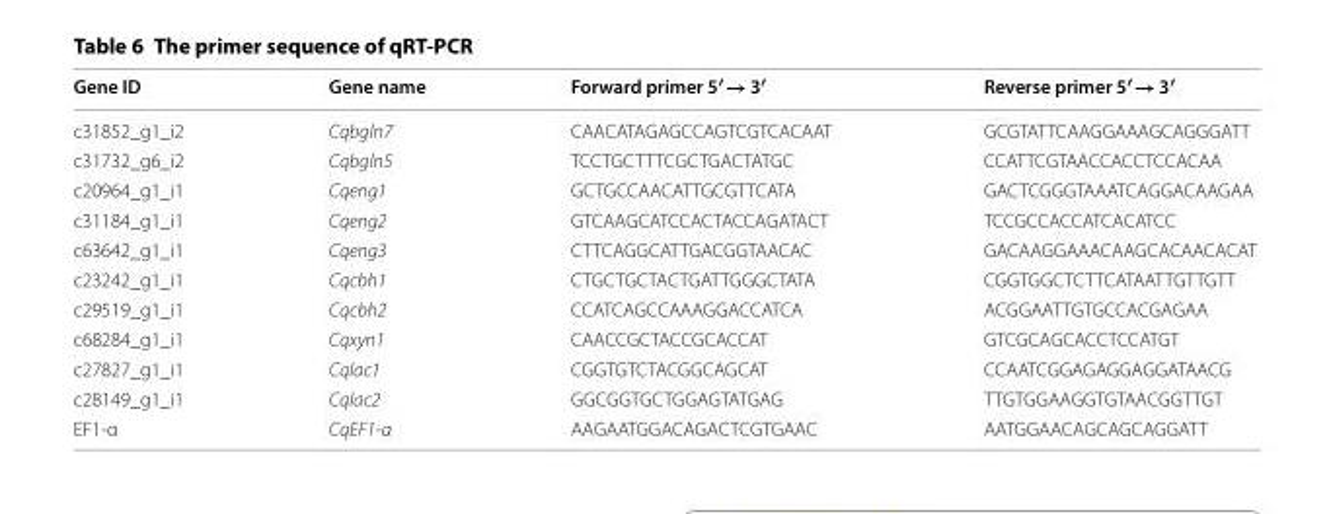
<table><thead><tr><td>Gene ID</td><td>Gene name</td><td>Forward primer 5′ → 3′</td><td>Reverse primer 5′ → 3′</td></tr></thead><tbody><tr><td>c31852_g1_i2</td><td>Cqbgln7</td><td>CAA CAT AGA GCC AGT CGT CAC AAT</td><td>GCG TAT TCA AGG AAA GCA GGG ATT</td></tr><tr><td>c31732_g6_i2</td><td>Cqbgln5</td><td>TCC TGC TTT CGC TGA CTA TGC</td><td>CCA TTC GTA ACC ACC TCC ACAA</td></tr><tr><td>c20964_g1_i1</td><td>Cqeng1</td><td>GCT GCC AAC ATT GCG TTC ATA</td><td>GAC TCG GGT AAA TCA GGA CAA GAA</td></tr><tr><td>c31184_g1_i1</td><td>Cqeng2</td><td>GTC AAG CAT CCA CTA CCA GAT ACT</td><td>TCC GCC ACC ATC ACA TCC</td></tr><tr><td>c63642_g1_i1</td><td>Cqeng3</td><td>CTT CAG GCA TTG ACG GTA ACAC</td><td>GAC AAG GAA ACA AGC ACA ACA CAT</td></tr><tr><td>c23242_g1_i1</td><td>Cqcbh1</td><td>CTG CTG CTA CTG ATT GGG CTATA</td><td>CGG TGG CTC TTC ATA ATT GTT GTT</td></tr><tr><td>c29519_g1_i1</td><td>Cqcbh2</td><td>CCA TCA GCC AAA GGA CCA TCA</td><td>ACG GAA TTG TGC CAC GAG AA</td></tr><tr><td>c68284_g1_i1</td><td>Cqxyn1</td><td>CAA CCG CTA CCG CAC CAT</td><td>GTC GCA GCA CCT CCA TGT</td></tr><tr><td>c27827_g1_i1</td><td>Cqlac1</td><td>CGG TGT CTA CGG CAG CAT</td><td>CCA ATC GGA GAG GAG GAT AACG</td></tr><tr><td>c28149_g1_i1</td><td>Cqlac2</td><td>GGC GGT GCT GGA GTA TGA G</td><td>TTG TGG AAG GTG TAA CGG TTGT</td></tr><tr><td>EF1-α</td><td>CqEF1-α</td><td>AAG AAT GGA CAG ACT CGT GAAC</td><td>AAT GGA ACA GCA GCA GGA TT</td></tr></tbody></table>